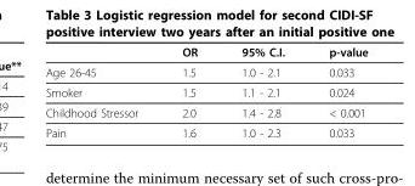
<table><thead><tr><td></td><td>OR</td><td>95% C.I.</td><td>p-value</td></tr></thead><tbody><tr><td>Age 26-45</td><td>1.5</td><td>1.0 - 2.1</td><td>0.033</td></tr><tr><td>Smoker</td><td>1.5</td><td>1.1 - 2.1</td><td>0.024</td></tr><tr><td>Childhood Stressor</td><td>2.0</td><td>1.4 - 2.8</td><td>&lt; 0.001</td></tr><tr><td>Pain</td><td>1.6</td><td>1.0 - 2.3</td><td>0.033</td></tr></tbody></table>